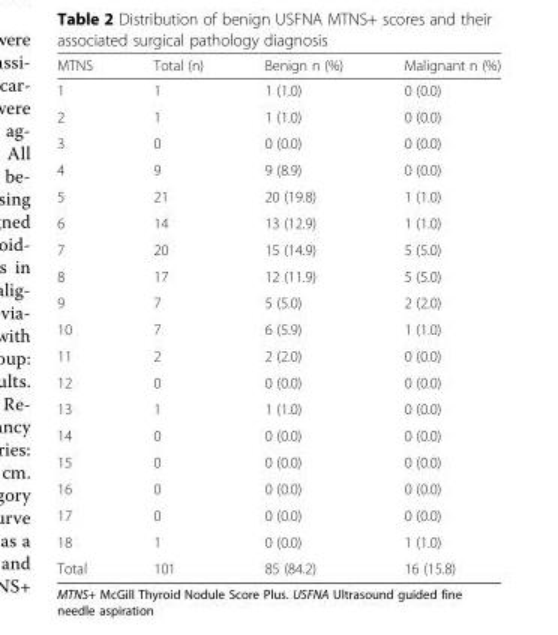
<table><thead><tr><td>MTNS</td><td>Total (n)</td><td>Benign n (%)</td><td>Malignant n (%)</td></tr></thead><tbody><tr><td>1</td><td>1</td><td>1 (1.0)</td><td>0 (0.0)</td></tr><tr><td>2</td><td>1</td><td>1 (1.0)</td><td>0 (0.0)</td></tr><tr><td>3</td><td>0</td><td>0 (0.0)</td><td>0 (0.0)</td></tr><tr><td>4</td><td>9</td><td>9 (8.9)</td><td>0 (0.0)</td></tr><tr><td>5</td><td>21</td><td>20 (19.8)</td><td>1 (1.0)</td></tr><tr><td>6</td><td>14</td><td>13 (12.9)</td><td>1 (1.0)</td></tr><tr><td>7</td><td>20</td><td>15 (14.9)</td><td>5 (5.0)</td></tr><tr><td>8</td><td>17</td><td>12 (11.9)</td><td>5 (5.0)</td></tr><tr><td>9</td><td>7</td><td>5 (5.0)</td><td>2 (2.0)</td></tr><tr><td>10</td><td>7</td><td>6 (5.9)</td><td>1 (1.0)</td></tr><tr><td>11</td><td>2</td><td>2 (2.0)</td><td>0 (0.0)</td></tr><tr><td>12</td><td>0</td><td>0 (0.0)</td><td>0 (0.0)</td></tr><tr><td>13</td><td>1</td><td>1 (1.0)</td><td>0 (0.0)</td></tr><tr><td>14</td><td>0</td><td>0 (0.0)</td><td>0 (0.0)</td></tr><tr><td>15</td><td>0</td><td>0 (0.0)</td><td>0 (0.0)</td></tr><tr><td>16</td><td>0</td><td>0 (0.0)</td><td>0 (0.0)</td></tr><tr><td>17</td><td>0</td><td>0 (0.0)</td><td>0 (0.0)</td></tr><tr><td>18</td><td>1</td><td>0 (0.0)</td><td>1 (1.0)</td></tr><tr><td>Total</td><td>101</td><td>85 (84.2)</td><td>16 (15.8)</td></tr></tbody></table>